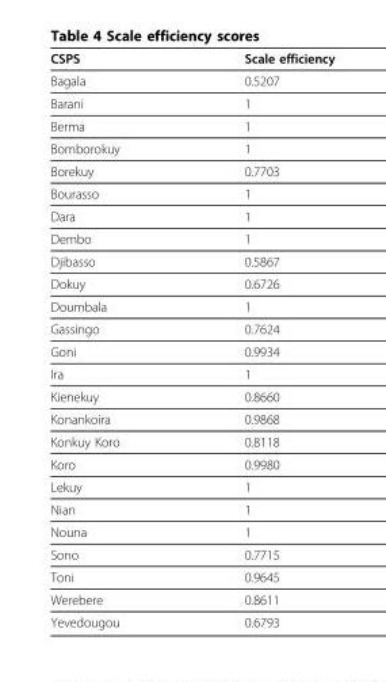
<table><thead><tr><td>CSPS</td><td>Scale efficiency</td></tr></thead><tbody><tr><td>Bagala</td><td>0.5207</td></tr><tr><td>Barani</td><td>1</td></tr><tr><td>Berma</td><td>1</td></tr><tr><td>Bomborokuy</td><td>1</td></tr><tr><td>Borekuy</td><td>0.7703</td></tr><tr><td>Bourasso</td><td>1</td></tr><tr><td>Dara</td><td>1</td></tr><tr><td>Dembo</td><td>1</td></tr><tr><td>Djibasso</td><td>0.5867</td></tr><tr><td>Dokuy</td><td>0.6726</td></tr><tr><td>Doumbala</td><td>1</td></tr><tr><td>Gassingo</td><td>0.7624</td></tr><tr><td>Goni</td><td>0.9934</td></tr><tr><td>Ira</td><td>1</td></tr><tr><td>Kienekuy</td><td>0.8660</td></tr><tr><td>Konankoira</td><td>0.9868</td></tr><tr><td>Konkuy Koro</td><td>0.8118</td></tr><tr><td>Koro</td><td>0.9980</td></tr><tr><td>Lekuy</td><td>1</td></tr><tr><td>Nian</td><td>1</td></tr><tr><td>Nouna</td><td>1</td></tr><tr><td>Sono</td><td>0.7715</td></tr><tr><td>Toni</td><td>0.9645</td></tr><tr><td>Werebere</td><td>0.8611</td></tr><tr><td>Yevedougou</td><td>0.6793</td></tr></tbody></table>